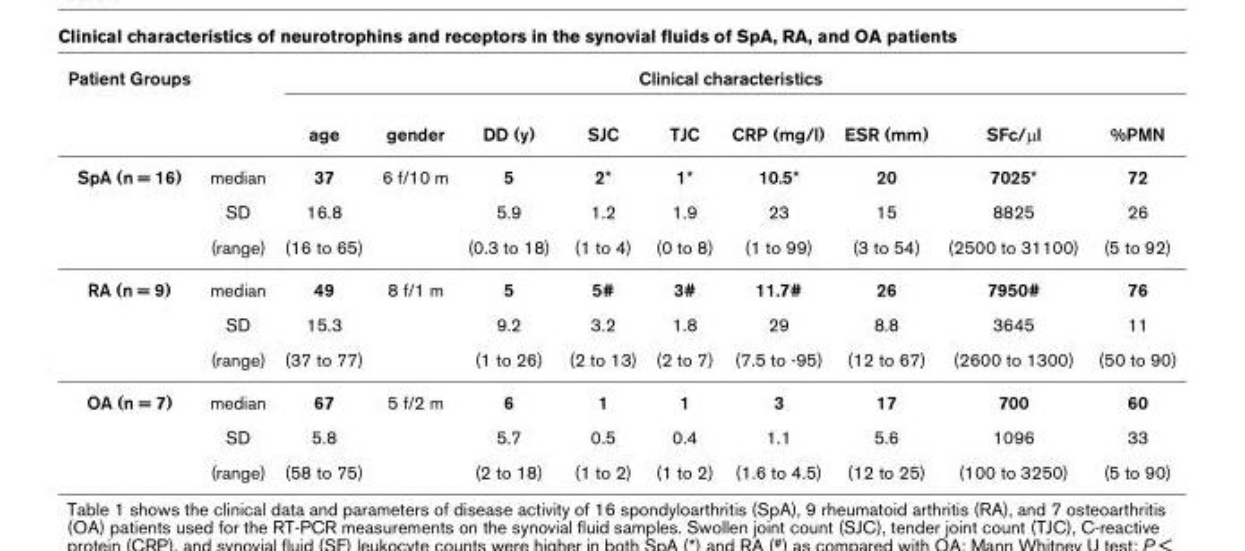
<table><thead><tr><td rowspan="2">Patient Groups</td><td rowspan="2"></td><td colspan="9">Clinical characteristics</td></tr><tr><td>age</td><td>gender</td><td>DD (y)</td><td>SJC</td><td>TJC</td><td>CRP (mg/l)</td><td>ESR (mm)</td><td>SFc/μl</td><td>%PMN</td></tr></thead><tbody><tr><td rowspan="3">SpA (n = 16)</td><td>median</td><td>37</td><td>6 f/10 m</td><td>5</td><td>2*</td><td>1*</td><td>10.5*</td><td>20</td><td>7025*</td><td>72</td></tr><tr><td>SD</td><td>16.8</td><td></td><td>5.9</td><td>1.2</td><td>1.9</td><td>23</td><td>15</td><td>8825</td><td>26</td></tr><tr><td>(range)</td><td>(16 to 65)</td><td></td><td>(0.3 to 18)</td><td>(1 to 4)</td><td>(0 to 8)</td><td>(1 to 99)</td><td>(3 to 54)</td><td>(2500 to 31100)</td><td>(5 to 92)</td></tr><tr><td rowspan="3">RA (n = 9)</td><td>median</td><td>49</td><td>8 f/1 m</td><td>5</td><td>5#</td><td>3#</td><td>11.7#</td><td>26</td><td>7950#</td><td>76</td></tr><tr><td>SD</td><td>15.3</td><td></td><td>9.2</td><td>3.2</td><td>1.8</td><td>29</td><td>8.8</td><td>3645</td><td>11</td></tr><tr><td>(range)</td><td>(37 to 77)</td><td></td><td>(1 to 26)</td><td>(2 to 13)</td><td>(2 to 7)</td><td>(7.5 to -95)</td><td>(12 to 67)</td><td>(2600 to 1300)</td><td>(50 to 90)</td></tr><tr><td rowspan="3">OA (n = 7)</td><td>median</td><td>67</td><td>5 f/2 m</td><td>6</td><td>1</td><td>1</td><td>3</td><td>17</td><td>700</td><td>60</td></tr><tr><td>SD</td><td>5.8</td><td></td><td>5.7</td><td>0.5</td><td>0.4</td><td>1.1</td><td>5.6</td><td>1096</td><td>33</td></tr><tr><td>(range)</td><td>(58 to 75)</td><td></td><td>(2 to 18)</td><td>(1 to 2)</td><td>(1 to 2)</td><td>(1.6 to 4.5)</td><td>(12 to 25)</td><td>(100 to 3250)</td><td>(5 to 90)</td></tr></tbody></table>